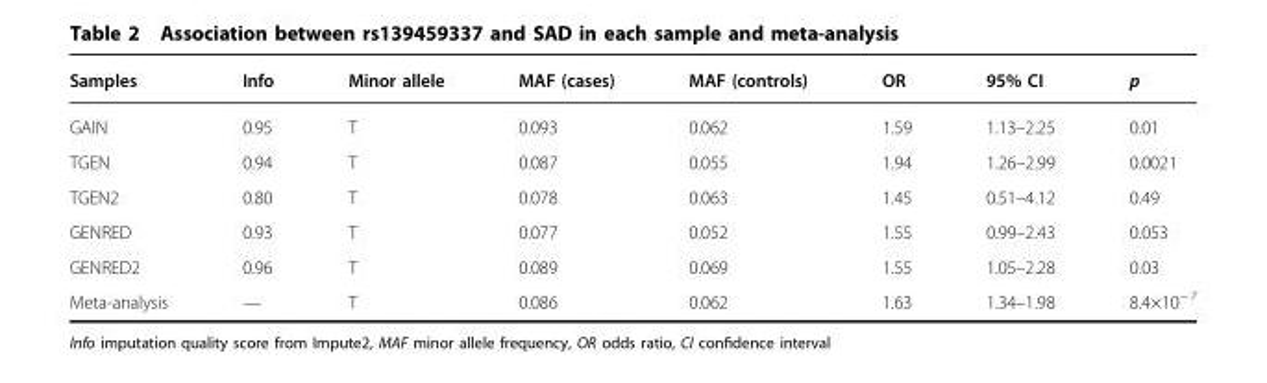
<table><thead><tr><td>Samples</td><td>Info</td><td>Minor allele</td><td>MAF (cases)</td><td>MAF (controls)</td><td>OR</td><td>95% CI</td><td>p</td></tr></thead><tbody><tr><td>GAIN</td><td>0.95</td><td>T</td><td>0.093</td><td>0.062</td><td>1.59</td><td>1.13–2.25</td><td>0.01</td></tr><tr><td>TGEN</td><td>0.94</td><td>T</td><td>0.087</td><td>0.055</td><td>1.94</td><td>1.26–2.99</td><td>0.0021</td></tr><tr><td>TGEN2</td><td>0.80</td><td>T</td><td>0.078</td><td>0.063</td><td>1.45</td><td>0.51–4.12</td><td>0.49</td></tr><tr><td>GENRED</td><td>0.93</td><td>T</td><td>0.077</td><td>0.052</td><td>1.55</td><td>0.99–2.43</td><td>0.053</td></tr><tr><td>GENRED2</td><td>0.96</td><td>T</td><td>0.089</td><td>0.069</td><td>1.55</td><td>1.05–2.28</td><td>0.03</td></tr><tr><td>Meta-analysis</td><td>—</td><td>T</td><td>0.086</td><td>0.062</td><td>1.63</td><td>1.34–1.98</td><td>8.4×10<sup>−7</sup></td></tr></tbody></table>